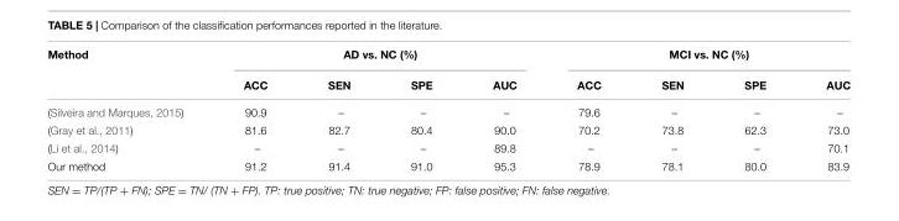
<table><thead><tr><td rowspan="2">Method</td><td colspan="4">AD vs. NC (%)</td><td colspan="4">MCI vs. NC (%)</td></tr><tr><td>ACC</td><td>SEN</td><td>SPE</td><td>AUC</td><td>ACC</td><td>SEN</td><td>SPE</td><td>AUC</td></tr></thead><tbody><tr><td>(Silveira and Marques, 2015)</td><td>90.9</td><td>–</td><td>–</td><td>–</td><td>79.6</td><td>–</td><td>–</td><td>–</td></tr><tr><td>(Gray et al., 2011)</td><td>81.6</td><td>82.7</td><td>80.4</td><td>90.0</td><td>70.2</td><td>73.8</td><td>62.3</td><td>73.0</td></tr><tr><td>(Li et al., 2014)</td><td>–</td><td>–</td><td>–</td><td>89.8</td><td>–</td><td>–</td><td>–</td><td>70.1</td></tr><tr><td>Our method</td><td>91.2</td><td>91.4</td><td>91.0</td><td>95.3</td><td>78.9</td><td>78.1</td><td>80.0</td><td>83.9</td></tr></tbody></table>